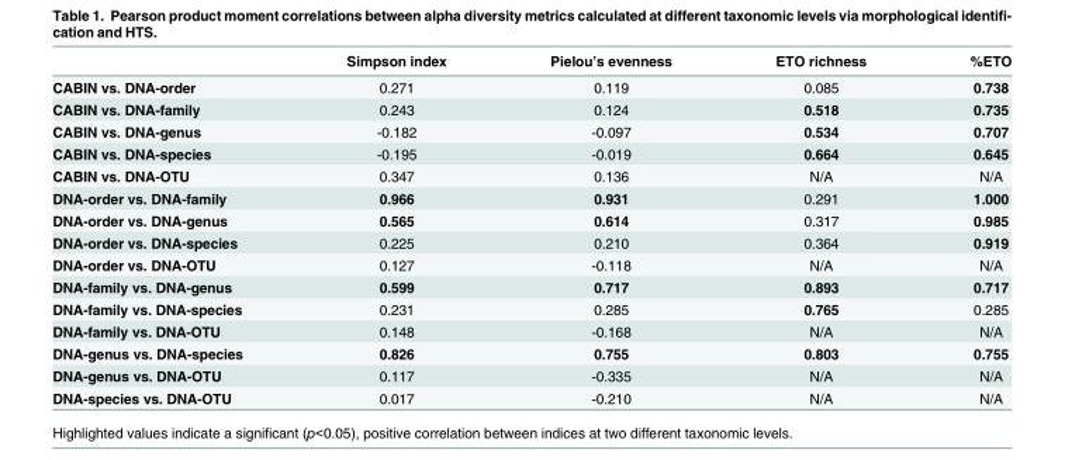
<table><thead><tr><td></td><td>Simpson index</td><td>Pielou’s evenness</td><td>ETO richness</td><td>%ETO</td></tr></thead><tbody><tr><td>CABIN vs. DNA-order</td><td>0.271</td><td>0.119</td><td>0.085</td><td>0.738</td></tr><tr><td>CABIN vs. DNA-family</td><td>0.243</td><td>0.124</td><td>0.518</td><td>0.735</td></tr><tr><td>CABIN vs. DNA-genus</td><td>-0.182</td><td>-0.097</td><td>0.534</td><td>0.707</td></tr><tr><td>CABIN vs. DNA-species</td><td>-0.195</td><td>-0.019</td><td>0.664</td><td>0.645</td></tr><tr><td>CABIN vs. DNA-OTU</td><td>0.347</td><td>0.136</td><td>N/A</td><td>N/A</td></tr><tr><td>DNA-order vs. DNA-family</td><td>0.966</td><td>0.931</td><td>0.291</td><td>1.000</td></tr><tr><td>DNA-order vs. DNA-genus</td><td>0.565</td><td>0.614</td><td>0.317</td><td>0.985</td></tr><tr><td>DNA-order vs. DNA-species</td><td>0.225</td><td>0.210</td><td>0.364</td><td>0.919</td></tr><tr><td>DNA-order vs. DNA-OTU</td><td>0.127</td><td>-0.118</td><td>N/A</td><td>N/A</td></tr><tr><td>DNA-family vs. DNA-genus</td><td>0.599</td><td>0.717</td><td>0.893</td><td>0.717</td></tr><tr><td>DNA-family vs. DNA-species</td><td>0.231</td><td>0.285</td><td>0.765</td><td>0.285</td></tr><tr><td>DNA-family vs. DNA-OTU</td><td>0.148</td><td>-0.168</td><td>N/A</td><td>N/A</td></tr><tr><td>DNA-genus vs. DNA-species</td><td>0.826</td><td>0.755</td><td>0.803</td><td>0.755</td></tr><tr><td>DNA-genus vs. DNA-OTU</td><td>0.117</td><td>-0.335</td><td>N/A</td><td>N/A</td></tr><tr><td>DNA-species vs. DNA-OTU</td><td>0.017</td><td>-0.210</td><td>N/A</td><td>N/A</td></tr></tbody></table>